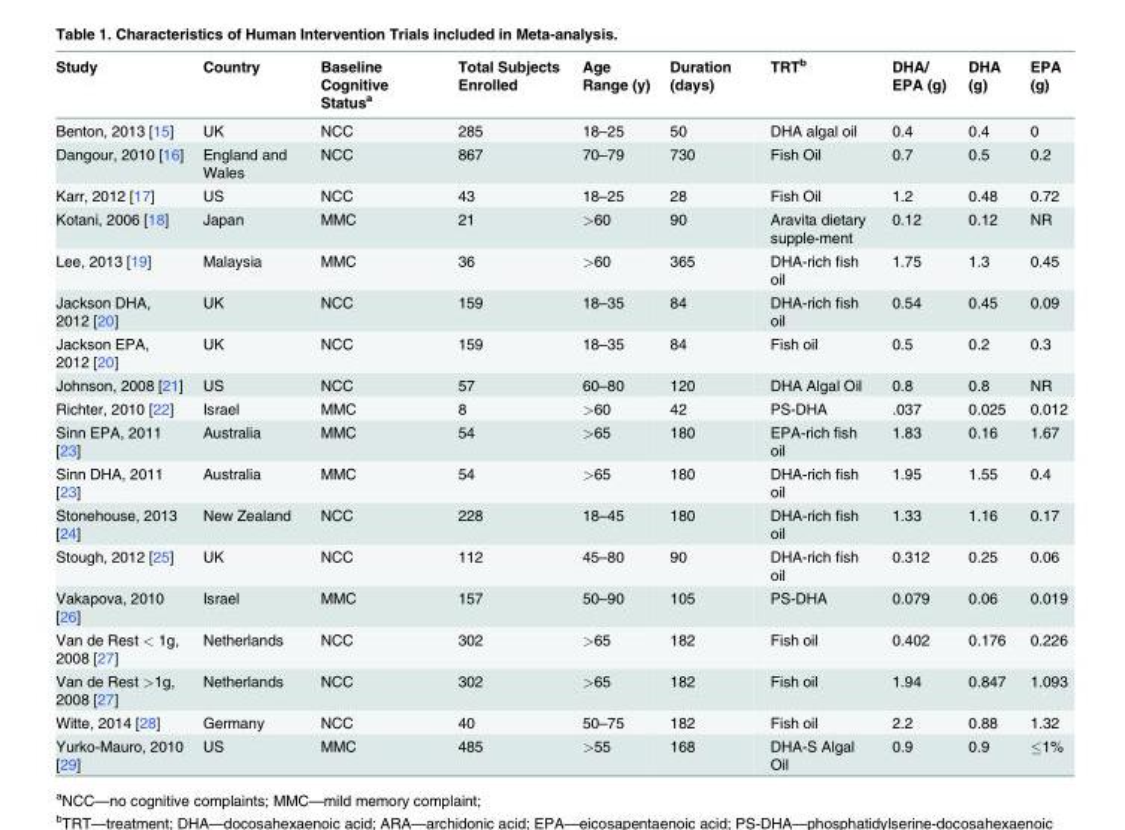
<table><thead><tr><td>Study</td><td>Country</td><td>Baseline Cognitive Status<sup>a</sup></td><td>Total Subjects Enrolled</td><td>Age Range (y)</td><td>Duration (days)</td><td>TRT<sup>b</sup></td><td>DHA/ EPA (g)</td><td>DHA (g)</td><td>EPA (g)</td></tr></thead><tbody><tr><td>Benton, 2013 [15]</td><td>UK</td><td>NCC</td><td>285</td><td>18–25</td><td>50</td><td>DHA algal oil</td><td>0.4</td><td>0.4</td><td>0</td></tr><tr><td>Dangour, 2010 [16]</td><td>England and Wales</td><td>NCC</td><td>867</td><td>70–79</td><td>730</td><td>Fish Oil</td><td>0.7</td><td>0.5</td><td>0.2</td></tr><tr><td>Karr, 2012 [17]</td><td>US</td><td>NCC</td><td>43</td><td>18–25</td><td>28</td><td>Fish Oil</td><td>1.2</td><td>0.48</td><td>0.72</td></tr><tr><td>Kotani, 2006 [18]</td><td>Japan</td><td>MMC</td><td>21</td><td>&gt;60</td><td>90</td><td>Aravita dietary supple-ment</td><td>0.12</td><td>0.12</td><td>NR</td></tr><tr><td>Lee, 2013 [19]</td><td>Malaysia</td><td>MMC</td><td>36</td><td>&gt;60</td><td>365</td><td>DHA-rich fish oil</td><td>1.75</td><td>1.3</td><td>0.45</td></tr><tr><td>Jackson DHA, 2012 [20]</td><td>UK</td><td>NCC</td><td>159</td><td>18–35</td><td>84</td><td>DHA-rich fish oil</td><td>0.54</td><td>0.45</td><td>0.09</td></tr><tr><td>Jackson EPA, 2012 [20]</td><td>UK</td><td>NCC</td><td>159</td><td>18–35</td><td>84</td><td>Fish oil</td><td>0.5</td><td>0.2</td><td>0.3</td></tr><tr><td>Johnson, 2008 [21]</td><td>US</td><td>NCC</td><td>57</td><td>60–80</td><td>120</td><td>DHA Algal Oil</td><td>0.8</td><td>0.8</td><td>NR</td></tr><tr><td>Richter, 2010 [22]</td><td>Israel</td><td>MMC</td><td>8</td><td>&gt;60</td><td>42</td><td>PS-DHA</td><td>.037</td><td>0.025</td><td>0.012</td></tr><tr><td>Sinn EPA, 2011 [23]</td><td>Australia</td><td>MMC</td><td>54</td><td>&gt;65</td><td>180</td><td>EPA-rich fish oil</td><td>1.83</td><td>0.16</td><td>1.67</td></tr><tr><td>Sinn DHA, 2011 [23]</td><td>Australia</td><td>MMC</td><td>54</td><td>&gt;65</td><td>180</td><td>DHA-rich fish oil</td><td>1.95</td><td>1.55</td><td>0.4</td></tr><tr><td>Stonehouse, 2013 [24]</td><td>New Zealand</td><td>NCC</td><td>228</td><td>18–45</td><td>180</td><td>DHA-rich fish oil</td><td>1.33</td><td>1.16</td><td>0.17</td></tr><tr><td>Stough, 2012 [25]</td><td>UK</td><td>NCC</td><td>112</td><td>45–80</td><td>90</td><td>DHA-rich fish oil</td><td>0.312</td><td>0.25</td><td>0.06</td></tr><tr><td>Vakapova, 2010 [26]</td><td>Israel</td><td>MMC</td><td>157</td><td>50–90</td><td>105</td><td>PS-DHA</td><td>0.079</td><td>0.06</td><td>0.019</td></tr><tr><td>Van de Rest &lt; 1g, 2008 [27]</td><td>Netherlands</td><td>NCC</td><td>302</td><td>&gt;65</td><td>182</td><td>Fish oil</td><td>0.402</td><td>0.176</td><td>0.226</td></tr><tr><td>Van de Rest &gt;1g, 2008 [27]</td><td>Netherlands</td><td>NCC</td><td>302</td><td>&gt;65</td><td>182</td><td>Fish oil</td><td>1.94</td><td>0.847</td><td>1.093</td></tr><tr><td>Witte, 2014 [28]</td><td>Germany</td><td>NCC</td><td>40</td><td>50–75</td><td>182</td><td>Fish oil</td><td>2.2</td><td>0.88</td><td>1.32</td></tr><tr><td>Yurko-Mauro, 2010 [29]</td><td>US</td><td>MMC</td><td>485</td><td>&gt;55</td><td>168</td><td>DHA-S Algal Oil</td><td>0.9</td><td>0.9</td><td>≤1%</td></tr></tbody></table>